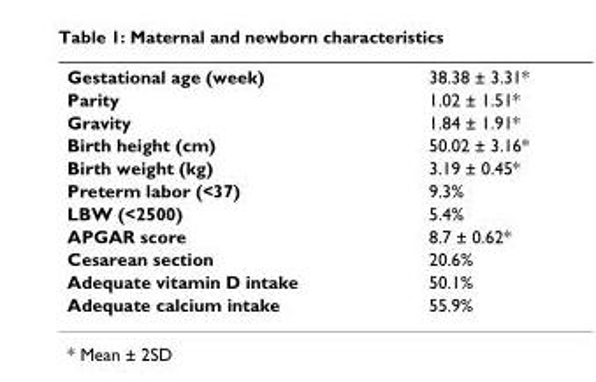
<table><tbody><tr><td>Gestational age (week)</td><td>38.38 ± 3.31*</td></tr><tr><td>Parity</td><td>1.02 ± 1.51*</td></tr><tr><td>Gravity</td><td>1.84 ± 1.91*</td></tr><tr><td>Birth height (cm)</td><td>50.02 ± 3.16*</td></tr><tr><td>Birth weight (kg)</td><td>3.19 ± 0.45*</td></tr><tr><td>Preterm labor (&lt;37)</td><td>9.3%</td></tr><tr><td>LBW (&lt;2500)</td><td>5.4%</td></tr><tr><td>APGAR score</td><td>8.7 ± 0.62*</td></tr><tr><td>Cesarean section</td><td>20.6%</td></tr><tr><td>Adequate vitamin D intake</td><td>50.1%</td></tr><tr><td>Adequate calcium intake</td><td>55.9%</td></tr></tbody></table>